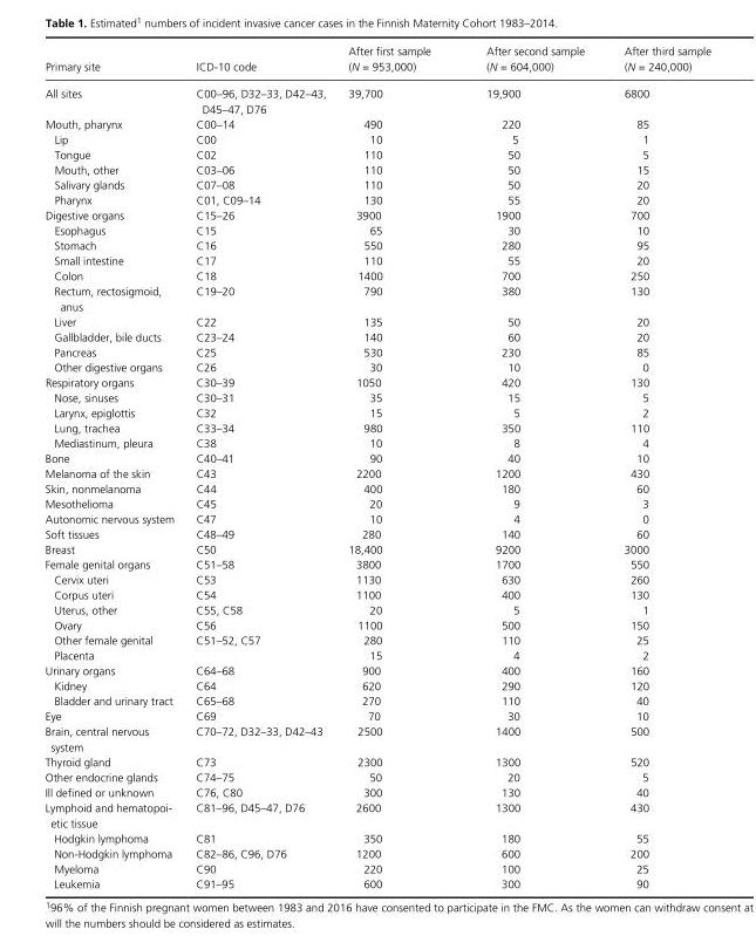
<table><thead><tr><td>Primary site</td><td>ICD- 10 code</td><td>After first sample (N = 953,000)</td><td>After second sample (N = 604,000)</td><td>After third sample (N = 240,000)</td></tr></thead><tbody><tr><td>All sites</td><td>C00–96, D32–33, D42–43, D45–47, D76</td><td>39,700</td><td>19,900</td><td>6800</td></tr><tr><td>Mouth, pharynx</td><td>C00–14</td><td>490</td><td>220</td><td>85</td></tr><tr><td>Lip</td><td>C00</td><td>10</td><td>5</td><td>1</td></tr><tr><td>Tongue</td><td>C02</td><td>110</td><td>50</td><td>5</td></tr><tr><td>Mouth, other</td><td>C03–06</td><td>110</td><td>50</td><td>15</td></tr><tr><td>Salivary glands</td><td>C07–08</td><td>110</td><td>50</td><td>20</td></tr><tr><td>Pharynx</td><td>C01, C09–14</td><td>130</td><td>55</td><td>20</td></tr><tr><td>Digestive organs</td><td>C15–26</td><td>3900</td><td>1900</td><td>700</td></tr><tr><td>Esophagus</td><td>C15</td><td>65</td><td>30</td><td>10</td></tr><tr><td>Stomach</td><td>C16</td><td>550</td><td>280</td><td>95</td></tr><tr><td>Small intestine</td><td>C17</td><td>110</td><td>55</td><td>20</td></tr><tr><td>Colon</td><td>C18</td><td>1400</td><td>700</td><td>250</td></tr><tr><td>Rectum, rectosigmoid, anus</td><td>C19–20</td><td>790</td><td>380</td><td>130</td></tr><tr><td>Liver</td><td>C22</td><td>135</td><td>50</td><td>20</td></tr><tr><td>Gallbladder, bile ducts</td><td>C23–24</td><td>140</td><td>60</td><td>20</td></tr><tr><td>Pancreas</td><td>C25</td><td>530</td><td>230</td><td>85</td></tr><tr><td>Other digestive organs</td><td>C26</td><td>30</td><td>10</td><td>0</td></tr><tr><td>Respiratory organs</td><td>C30–39</td><td>1050</td><td>420</td><td>130</td></tr><tr><td>Nose, sinuses</td><td>C30–31</td><td>35</td><td>15</td><td>5</td></tr><tr><td>Larynx, epiglottis</td><td>C32</td><td>15</td><td>5</td><td>2</td></tr><tr><td>Lung, trachea</td><td>C33–34</td><td>980</td><td>350</td><td>110</td></tr><tr><td>Mediastinum, pleura</td><td>C38</td><td>10</td><td>8</td><td>4</td></tr><tr><td>Bone</td><td>C40–41</td><td>90</td><td>40</td><td>10</td></tr><tr><td>Melanoma of the skin</td><td>C43</td><td>2200</td><td>1200</td><td>430</td></tr><tr><td>Skin, nonmelanoma</td><td>C44</td><td>400</td><td>180</td><td>60</td></tr><tr><td>Mesothelioma</td><td>C45</td><td>20</td><td>9</td><td>3</td></tr><tr><td>Autonomic nervous system</td><td>C47</td><td>10</td><td>4</td><td>0</td></tr><tr><td>Soft tissues</td><td>C48–49</td><td>280</td><td>140</td><td>60</td></tr><tr><td>Breast</td><td>C50</td><td>18,400</td><td>9200</td><td>3000</td></tr><tr><td>Female genital organs</td><td>C51–58</td><td>3800</td><td>1700</td><td>550</td></tr><tr><td>Cervix uteri</td><td>C53</td><td>1130</td><td>630</td><td>260</td></tr><tr><td>Corpus uteri</td><td>C54</td><td>1100</td><td>400</td><td>130</td></tr><tr><td>Uterus, other</td><td>C55, C58</td><td>20</td><td>5</td><td>1</td></tr><tr><td>Ovary</td><td>C56</td><td>1100</td><td>500</td><td>150</td></tr><tr><td>Other female genital</td><td>C51–52, C57</td><td>280</td><td>110</td><td>25</td></tr><tr><td>Placenta</td><td></td><td>15</td><td>4</td><td>2</td></tr><tr><td>Urinary organs</td><td>C64–68</td><td>900</td><td>400</td><td>160</td></tr><tr><td>Kidney</td><td>C64</td><td>620</td><td>290</td><td>120</td></tr><tr><td>Bladder and urinary tract</td><td>C65–68</td><td>270</td><td>110</td><td>40</td></tr><tr><td>Eye</td><td>C69</td><td>70</td><td>30</td><td>10</td></tr><tr><td>Brain, central nervous system</td><td>C70–72, D32–33, D42–43</td><td>2500</td><td>1400</td><td>500</td></tr><tr><td>Thyroid gland</td><td>C73</td><td>2300</td><td>1300</td><td>520</td></tr><tr><td>Other endocrine glands</td><td>C74–75</td><td>50</td><td>20</td><td>5</td></tr><tr><td>Ill defined or unknown</td><td>C76, C80</td><td>300</td><td>130</td><td>40</td></tr><tr><td>Lymphoid and hematopoi- etic tissue</td><td>C81–96, D45–47, D76</td><td>2600</td><td>1300</td><td>430</td></tr><tr><td>Hodgkin lymphoma</td><td>C81</td><td>350</td><td>180</td><td>55</td></tr><tr><td>Non- Hodgkin lymphoma</td><td>C82–86, C96, D76</td><td>1200</td><td>600</td><td>200</td></tr><tr><td>Myeloma</td><td>C90</td><td>220</td><td>100</td><td>25</td></tr><tr><td>Leukemia</td><td>C91–95</td><td>600</td><td>300</td><td>90</td></tr></tbody></table>